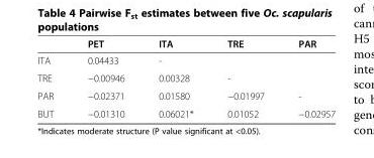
<table><thead><tr><td></td><td>PET</td><td>ITA</td><td>TRE</td><td>PAR</td></tr></thead><tbody><tr><td>ITA</td><td>0.04433</td><td>-</td><td></td><td></td></tr><tr><td>TRE</td><td>−0.00946</td><td>0.00328</td><td>-</td><td></td></tr><tr><td>PAR</td><td>−0.02371</td><td>0.01580</td><td>−0.01997</td><td>-</td></tr><tr><td>BUT</td><td>−0.01310</td><td>0.06021*</td><td>0.01052</td><td>−0.02957</td></tr></tbody></table>